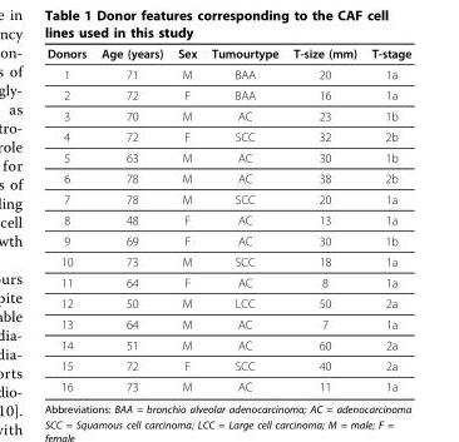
<table><thead><tr><td>Donors</td><td>Age (years)</td><td>Sex</td><td>Tumourtype</td><td>T-size (mm)</td><td>T-stage</td></tr></thead><tbody><tr><td>1</td><td>71</td><td>M</td><td>BAA</td><td>20</td><td>1a</td></tr><tr><td>2</td><td>72</td><td>F</td><td>BAA</td><td>16</td><td>1a</td></tr><tr><td>3</td><td>70</td><td>M</td><td>AC</td><td>23</td><td>1b</td></tr><tr><td>4</td><td>72</td><td>F</td><td>SCC</td><td>32</td><td>2b</td></tr><tr><td>5</td><td>63</td><td>M</td><td>AC</td><td>30</td><td>1b</td></tr><tr><td>6</td><td>78</td><td>M</td><td>AC</td><td>38</td><td>2b</td></tr><tr><td>7</td><td>78</td><td>M</td><td>SCC</td><td>20</td><td>1a</td></tr><tr><td>8</td><td>48</td><td>F</td><td>AC</td><td>13</td><td>1a</td></tr><tr><td>9</td><td>69</td><td>F</td><td>AC</td><td>30</td><td>1b</td></tr><tr><td>10</td><td>73</td><td>M</td><td>SCC</td><td>18</td><td>1a</td></tr><tr><td>11</td><td>64</td><td>F</td><td>AC</td><td>8</td><td>1a</td></tr><tr><td>12</td><td>50</td><td>M</td><td>LCC</td><td>50</td><td>2a</td></tr><tr><td>13</td><td>64</td><td>M</td><td>AC</td><td>7</td><td>1a</td></tr><tr><td>14</td><td>51</td><td>M</td><td>AC</td><td>60</td><td>2a</td></tr><tr><td>15</td><td>72</td><td>F</td><td>SCC</td><td>40</td><td>2a</td></tr><tr><td>16</td><td>73</td><td>M</td><td>AC</td><td>11</td><td>1a</td></tr></tbody></table>